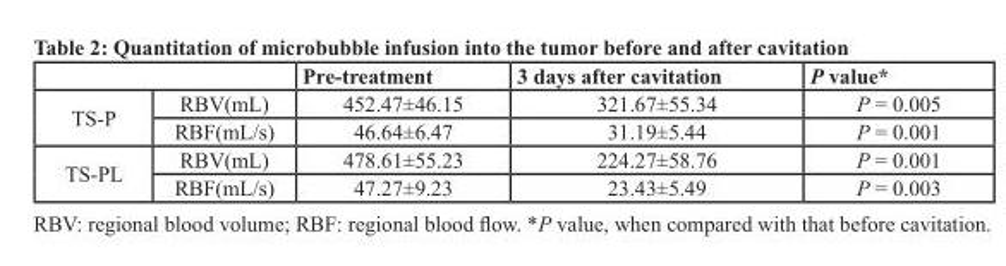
<table><thead><tr><td></td><td></td><td>Pre-treatment</td><td>3 days after cavitation</td><td>P value*</td></tr></thead><tbody><tr><td rowspan="2">TS-P</td><td>RBV(mL)</td><td>452.47±46.15</td><td>321.67±55.34</td><td>P = 0.005</td></tr><tr><td>RBF(mL/s)</td><td>46.64±6.47</td><td>31.19±5.44</td><td>P = 0.001</td></tr><tr><td rowspan="2">TS-PL</td><td>RBV(mL)</td><td>478.61±55.23</td><td>224.27±58.76</td><td>P = 0.001</td></tr><tr><td>RBF(mL/s)</td><td>47.27±9.23</td><td>23.43±5.49</td><td>P = 0.003</td></tr></tbody></table>